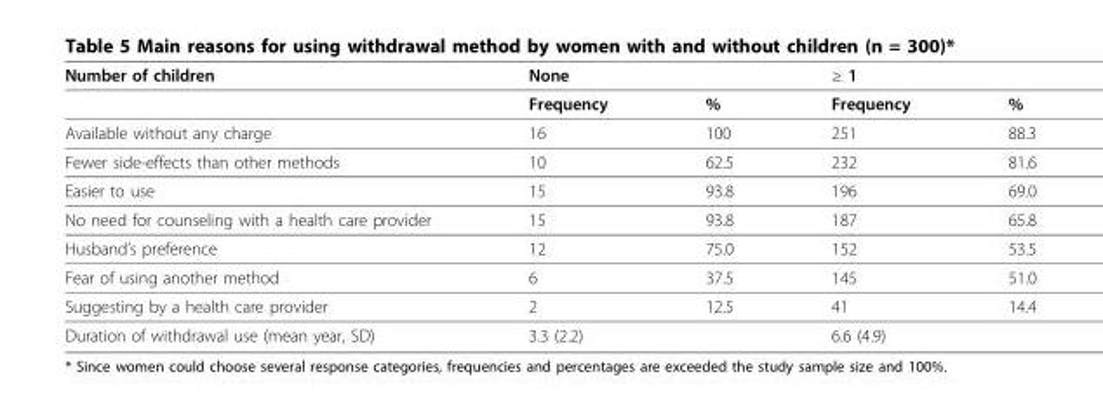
<table><tbody><tr><td rowspan="2">Number of children</td><td>None</td><td></td><td>≥ 1</td><td></td></tr><tr><td>Frequency</td><td>%</td><td>Frequency</td><td>%</td></tr><tr><td>Available without any charge</td><td>16</td><td>100</td><td>251</td><td>88.3</td></tr><tr><td>Fewer side-effects than other methods</td><td>10</td><td>62.5</td><td>232</td><td>81.6</td></tr><tr><td>Easier to use</td><td>15</td><td>93.8</td><td>196</td><td>69.0</td></tr><tr><td>No need for counseling with a health care provider</td><td>15</td><td>93.8</td><td>187</td><td>65.8</td></tr><tr><td>Husband’s preference</td><td>12</td><td>75.0</td><td>152</td><td>53.5</td></tr><tr><td>Fear of using another method</td><td>6</td><td>37.5</td><td>145</td><td>51.0</td></tr><tr><td>Suggesting by a health care provider</td><td>2</td><td>12.5</td><td>41</td><td>14.4</td></tr><tr><td>Duration of withdrawal use (mean year, SD)</td><td>3.3 (2.2)</td><td></td><td>6.6 (4.9)</td><td></td></tr></tbody></table>